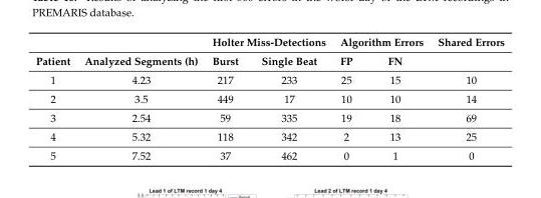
<table><thead><tr><td rowspan="2">Patient</td><td rowspan="2">Analyzed Segments (h)</td><td colspan="2">Holter Miss-Detections</td><td colspan="2">Algorithm Errors</td><td rowspan="2">Shared Errors</td></tr><tr><td>Burst</td><td>Single Beat</td><td>FP</td><td>FN</td></tr></thead><tbody><tr><td>1</td><td>4.23</td><td>217</td><td>233</td><td>25</td><td>15</td><td>10</td></tr><tr><td>2</td><td>3.5</td><td>449</td><td>17</td><td>10</td><td>10</td><td>14</td></tr><tr><td>3</td><td>2.54</td><td>59</td><td>335</td><td>19</td><td>18</td><td>69</td></tr><tr><td>4</td><td>5.32</td><td>118</td><td>342</td><td>2</td><td>13</td><td>25</td></tr><tr><td>5</td><td>7.52</td><td>37</td><td>462</td><td>0</td><td>1</td><td>0</td></tr></tbody></table>